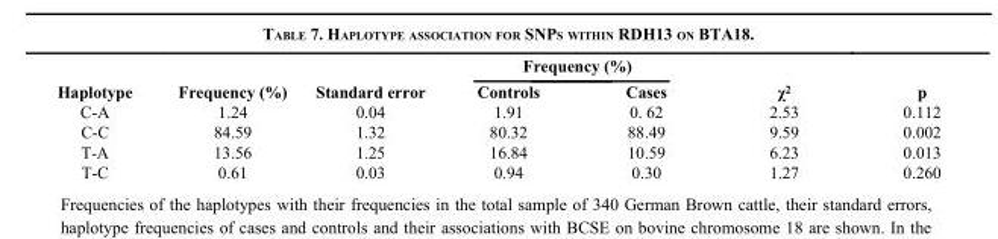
<table><thead><tr><td rowspan="2">Haplotype</td><td rowspan="2">Frequency (%)</td><td rowspan="2">Standard error</td><td colspan="2">Frequency (%)</td><td rowspan="2">χ<sup>2</sup></td><td rowspan="2">p</td></tr><tr><td>Controls</td><td>Cases</td></tr></thead><tbody><tr><td>C-A</td><td>1.24</td><td>0.04</td><td>1.91</td><td>0. 62</td><td>2.53</td><td>0.112</td></tr><tr><td>C-C</td><td>84.59</td><td>1.32</td><td>80.32</td><td>88.49</td><td>9.59</td><td>0.002</td></tr><tr><td>T-A</td><td>13.56</td><td>1.25</td><td>16.84</td><td>10.59</td><td>6.23</td><td>0.013</td></tr><tr><td>T-C</td><td>0.61</td><td>0.03</td><td>0.94</td><td>0.30</td><td>1.27</td><td>0.260</td></tr></tbody></table>